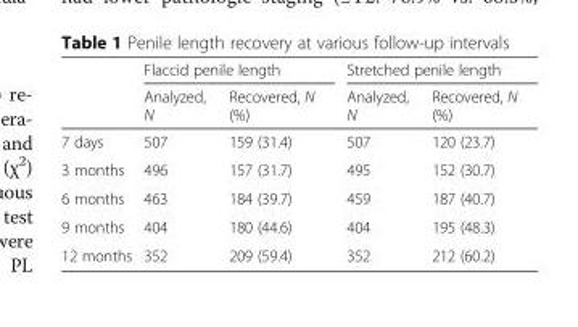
<table><thead><tr><td rowspan="2"></td><td colspan="2">Flaccid penile length</td><td colspan="2">Stretched penile length</td></tr><tr><td>Analyzed, N</td><td>Recovered, N (%)</td><td>Analyzed, N</td><td>Recovered, N (%)</td></tr></thead><tbody><tr><td>7 days</td><td>507</td><td>159 (31.4)</td><td>507</td><td>120 (23.7)</td></tr><tr><td>3 months</td><td>496</td><td>157 (31.7)</td><td>495</td><td>152 (30.7)</td></tr><tr><td>6 months</td><td>463</td><td>184 (39.7)</td><td>459</td><td>187 (40.7)</td></tr><tr><td>9 months</td><td>404</td><td>180 (44.6)</td><td>404</td><td>195 (48.3)</td></tr><tr><td>12 months</td><td>352</td><td>209 (59.4)</td><td>352</td><td>212 (60.2)</td></tr></tbody></table>